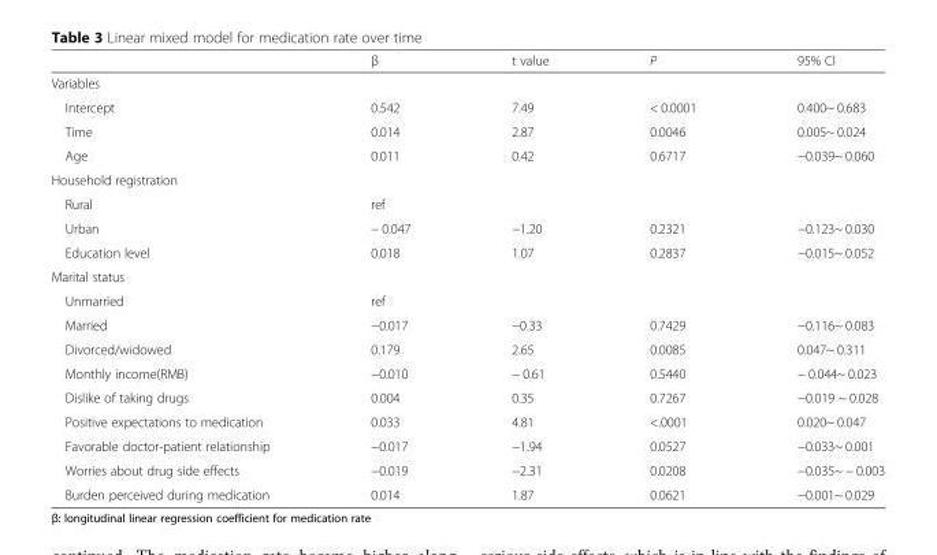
<table><thead><tr><td></td><td>β</td><td>t value</td><td>P</td><td>95% CI</td></tr></thead><tbody><tr><td colspan="5">Variables</td></tr><tr><td>Intercept</td><td>0.542</td><td>7.49</td><td>&lt; 0.0001</td><td>0.400~ 0.683</td></tr><tr><td>Time</td><td>0.014</td><td>2.87</td><td>0.0046</td><td>0.005~ 0.024</td></tr><tr><td>Age</td><td>0.011</td><td>0.42</td><td>0.6717</td><td>−0.039~ 0.060</td></tr><tr><td colspan="5">Household registration</td></tr><tr><td>Rural</td><td>ref</td><td></td><td></td><td></td></tr><tr><td>Urban</td><td>− 0.047</td><td>−1.20</td><td>0.2321</td><td>−0.123~ 0.030</td></tr><tr><td>Education level</td><td>0.018</td><td>1.07</td><td>0.2837</td><td>−0.015~ 0.052</td></tr><tr><td colspan="5">Marital status</td></tr><tr><td>Unmarried</td><td>ref</td><td></td><td></td><td></td></tr><tr><td>Married</td><td>−0.017</td><td>−0.33</td><td>0.7429</td><td>−0.116~ 0.083</td></tr><tr><td>Divorced/widowed</td><td>0.179</td><td>2.65</td><td>0.0085</td><td>0.047~ 0.311</td></tr><tr><td>Monthly income(RMB)</td><td>−0.010</td><td>− 0.61</td><td>0.5440</td><td>− 0.044~ 0.023</td></tr><tr><td>Dislike of taking drugs</td><td>0.004</td><td>0.35</td><td>0.7267</td><td>−0.019 ~ 0.028</td></tr><tr><td>Positive expectations to medication</td><td>0.033</td><td>4.81</td><td>&lt;.0001</td><td>0.020~ 0.047</td></tr><tr><td>Favorable doctor-patient relationship</td><td>−0.017</td><td>−1.94</td><td>0.0527</td><td>−0.033~ 0.001</td></tr><tr><td>Worries about drug side effects</td><td>−0.019</td><td>−2.31</td><td>0.0208</td><td>−0.035~ − 0.003</td></tr><tr><td>Burden perceived during medication</td><td>0.014</td><td>1.87</td><td>0.0621</td><td>−0.001~ 0.029</td></tr></tbody></table>